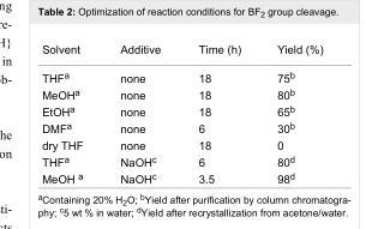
<table><tbody><tr><td>Solvent</td><td>Additive</td><td>Time (h)</td><td>Yield (%)</td></tr><tr><td>THF<sup>a</sup></td><td>none</td><td>18</td><td>75<sup>b</sup></td></tr><tr><td>MeOH<sup>a</sup></td><td>none</td><td>18</td><td>80<sup>b</sup></td></tr><tr><td>EtOH<sup>a</sup></td><td>none</td><td>18</td><td>65<sup>b</sup></td></tr><tr><td>DMF<sup>a</sup></td><td>none</td><td>6</td><td>30<sup>b</sup></td></tr><tr><td>dry THF</td><td>none</td><td>18</td><td>0</td></tr><tr><td>THF<sup>a</sup></td><td>NaOH<sup>c</sup></td><td>6</td><td>80<sup>d</sup></td></tr><tr><td>MeOH <sup>a</sup></td><td>NaOH<sup>c</sup></td><td>3.5</td><td>98<sup>d</sup></td></tr></tbody></table>